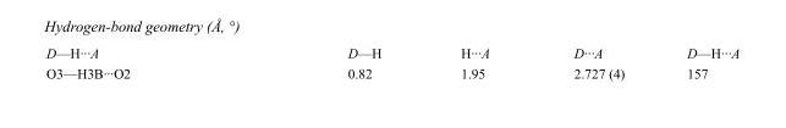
<table><tbody><tr><td>D—H···A</td><td>D—H</td><td>H···A</td><td>D···A</td><td>D—H···A</td></tr><tr><td>O3—H3B···O2</td><td>0.82</td><td>1.95</td><td>2.727 (4)</td><td>157</td></tr></tbody></table>